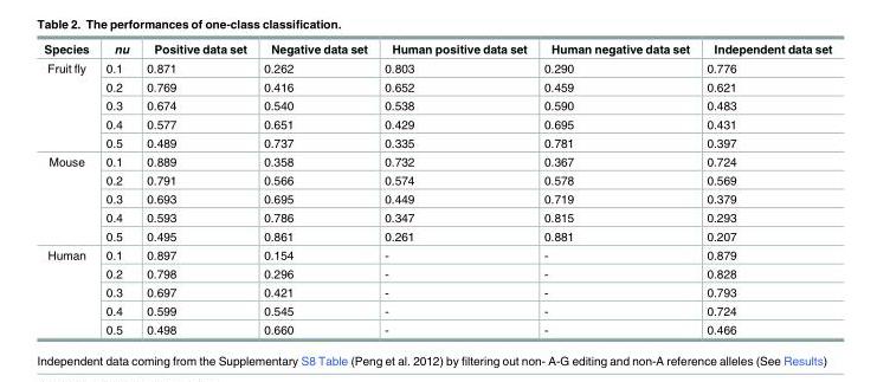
<table><thead><tr><td>Species</td><td>nu</td><td>Positive data set</td><td>Negative data set</td><td>Human positive data set</td><td>Human negative data set</td><td>Independent data set</td></tr></thead><tbody><tr><td rowspan="5">Fruit fly</td><td>0.1</td><td>0.871</td><td>0.262</td><td>0.803</td><td>0.290</td><td>0.776</td></tr><tr><td>0.2</td><td>0.769</td><td>0.416</td><td>0.652</td><td>0.459</td><td>0.621</td></tr><tr><td>0.3</td><td>0.674</td><td>0.540</td><td>0.538</td><td>0.590</td><td>0.483</td></tr><tr><td>0.4</td><td>0.577</td><td>0.651</td><td>0.429</td><td>0.695</td><td>0.431</td></tr><tr><td>0.5</td><td>0.489</td><td>0.737</td><td>0.335</td><td>0.781</td><td>0.397</td></tr><tr><td rowspan="5">Mouse</td><td>0.1</td><td>0.889</td><td>0.358</td><td>0.732</td><td>0.367</td><td>0.724</td></tr><tr><td>0.2</td><td>0.791</td><td>0.566</td><td>0.574</td><td>0.578</td><td>0.569</td></tr><tr><td>0.3</td><td>0.693</td><td>0.695</td><td>0.449</td><td>0.719</td><td>0.379</td></tr><tr><td>0.4</td><td>0.593</td><td>0.786</td><td>0.347</td><td>0.815</td><td>0.293</td></tr><tr><td>0.5</td><td>0.495</td><td>0.861</td><td>0.261</td><td>0.881</td><td>0.207</td></tr><tr><td rowspan="5">Human</td><td>0.1</td><td>0.897</td><td>0.154</td><td>-</td><td>-</td><td>0.879</td></tr><tr><td>0.2</td><td>0.798</td><td>0.296</td><td>-</td><td>-</td><td>0.828</td></tr><tr><td>0.3</td><td>0.697</td><td>0.421</td><td>-</td><td>-</td><td>0.793</td></tr><tr><td>0.4</td><td>0.599</td><td>0.545</td><td>-</td><td>-</td><td>0.724</td></tr><tr><td>0.5</td><td>0.498</td><td>0.660</td><td>-</td><td>-</td><td>0.466</td></tr></tbody></table>